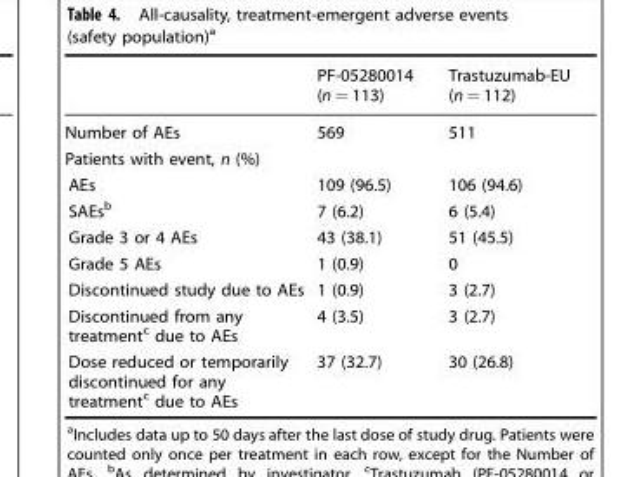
<table><thead><tr><td></td><td>PF-05280014 (n = 113)</td><td>Trastuzumab-EU (n = 112)</td></tr></thead><tbody><tr><td>Number of AEs</td><td>569</td><td>511</td></tr><tr><td colspan="3">Patients with event, n (%)</td></tr><tr><td>AEs</td><td>109 (96.5)</td><td>106 (94.6)</td></tr><tr><td>SAEs<sup>b</sup></td><td>7 (6.2)</td><td>6 (5.4)</td></tr><tr><td>Grade 3 or 4 AEs</td><td>43 (38.1)</td><td>51 (45.5)</td></tr><tr><td>Grade 5 AEs</td><td>1 (0.9)</td><td>0</td></tr><tr><td>Discontinued study due to AEs</td><td>1 (0.9)</td><td>3 (2.7)</td></tr><tr><td>Discontinued from any treatment<sup>c</sup> due to AEs</td><td>4 (3.5)</td><td>3 (2.7)</td></tr><tr><td>Dose reduced or temporarily discontinued for any treatment<sup>c</sup> due to AEs</td><td>37 (32.7)</td><td>30 (26.8)</td></tr></tbody></table>